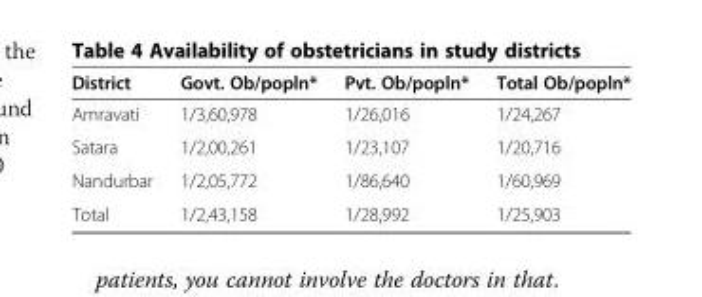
<table><thead><tr><td>District</td><td>Govt. Ob/popln*</td><td>Pvt. Ob/popln*</td><td>Total Ob/popln*</td></tr></thead><tbody><tr><td>Amravati</td><td>1/3,60,978</td><td>1/26,016</td><td>1/24,267</td></tr><tr><td>Satara</td><td>1/2,00,261</td><td>1/23,107</td><td>1/20,716</td></tr><tr><td>Nandurbar</td><td>1/2,05,772</td><td>1/86,640</td><td>1/60,969</td></tr><tr><td>Total</td><td>1/2,43,158</td><td>1/28,992</td><td>1/25,903</td></tr></tbody></table>